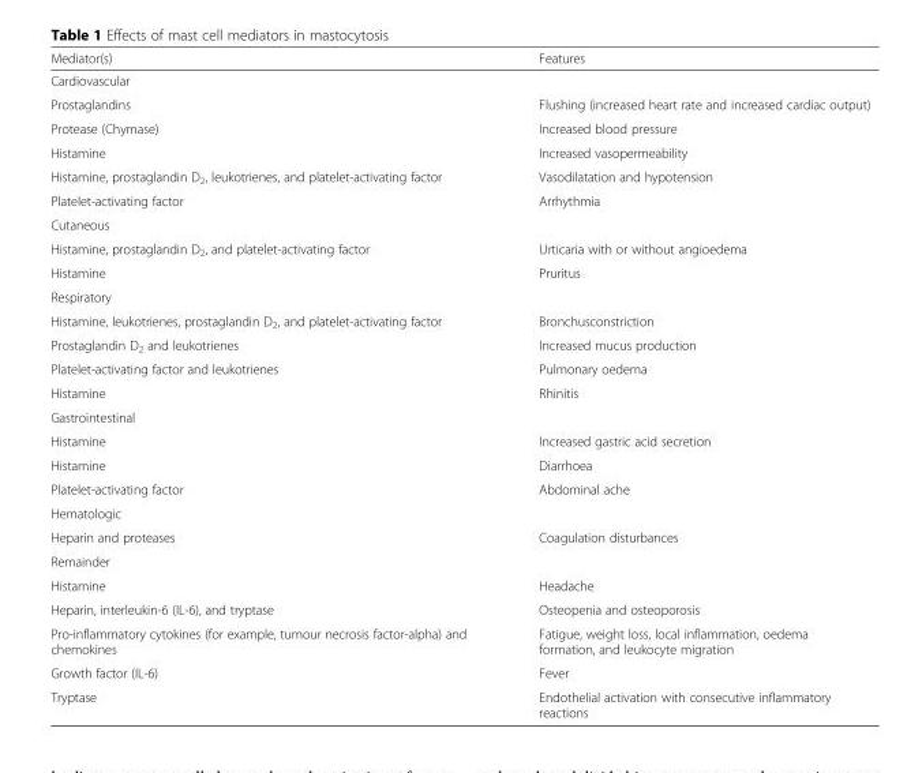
<table><thead><tr><td>Mediator(s)</td><td>Features</td></tr></thead><tbody><tr><td colspan="2">Cardiovascular</td></tr><tr><td>Prostaglandins</td><td>Flushing (increased heart rate and increased cardiac output)</td></tr><tr><td>Protease (Chymase)</td><td>Increased blood pressure</td></tr><tr><td>Histamine</td><td>Increased vasopermeability</td></tr><tr><td>Histamine, prostaglandin D<sub>2</sub>, leukotrienes, and platelet-activating factor</td><td>Vasodilatation and hypotension</td></tr><tr><td>Platelet-activating factor</td><td>Arrhythmia</td></tr><tr><td colspan="2">Cutaneous</td></tr><tr><td>Histamine, prostaglandin D<sub>2</sub>, and platelet-activating factor</td><td>Urticaria with or without angioedema</td></tr><tr><td>Histamine</td><td>Pruritus</td></tr><tr><td colspan="2">Respiratory</td></tr><tr><td>Histamine, leukotrienes, prostaglandin D<sub>2</sub>, and platelet-activating factor</td><td>Bronchusconstriction</td></tr><tr><td>Prostaglandin D<sub>2</sub> and leukotrienes</td><td>Increased mucus production</td></tr><tr><td>Platelet-activating factor and leukotrienes</td><td>Pulmonary oedema</td></tr><tr><td>Histamine</td><td>Rhinitis</td></tr><tr><td colspan="2">Gastrointestinal</td></tr><tr><td>Histamine</td><td>Increased gastric acid secretion</td></tr><tr><td>Histamine</td><td>Diarrhoea</td></tr><tr><td>Platelet-activating factor</td><td>Abdominal ache</td></tr><tr><td colspan="2">Hematologic</td></tr><tr><td>Heparin and proteases</td><td>Coagulation disturbances</td></tr><tr><td colspan="2">Remainder</td></tr><tr><td>Histamine</td><td>Headache</td></tr><tr><td>Heparin, interleukin-6 (IL-6), and tryptase</td><td>Osteopenia and osteoporosis</td></tr><tr><td>Pro-inflammatory cytokines (for example, tumour necrosis factor-alpha) and chemokines</td><td>Fatigue, weight loss, local inflammation, oedema formation, and leukocyte migration</td></tr><tr><td>Growth factor (IL-6)</td><td>Fever</td></tr><tr><td>Tryptase</td><td>Endothelial activation with consecutive inflammatory reactions</td></tr></tbody></table>